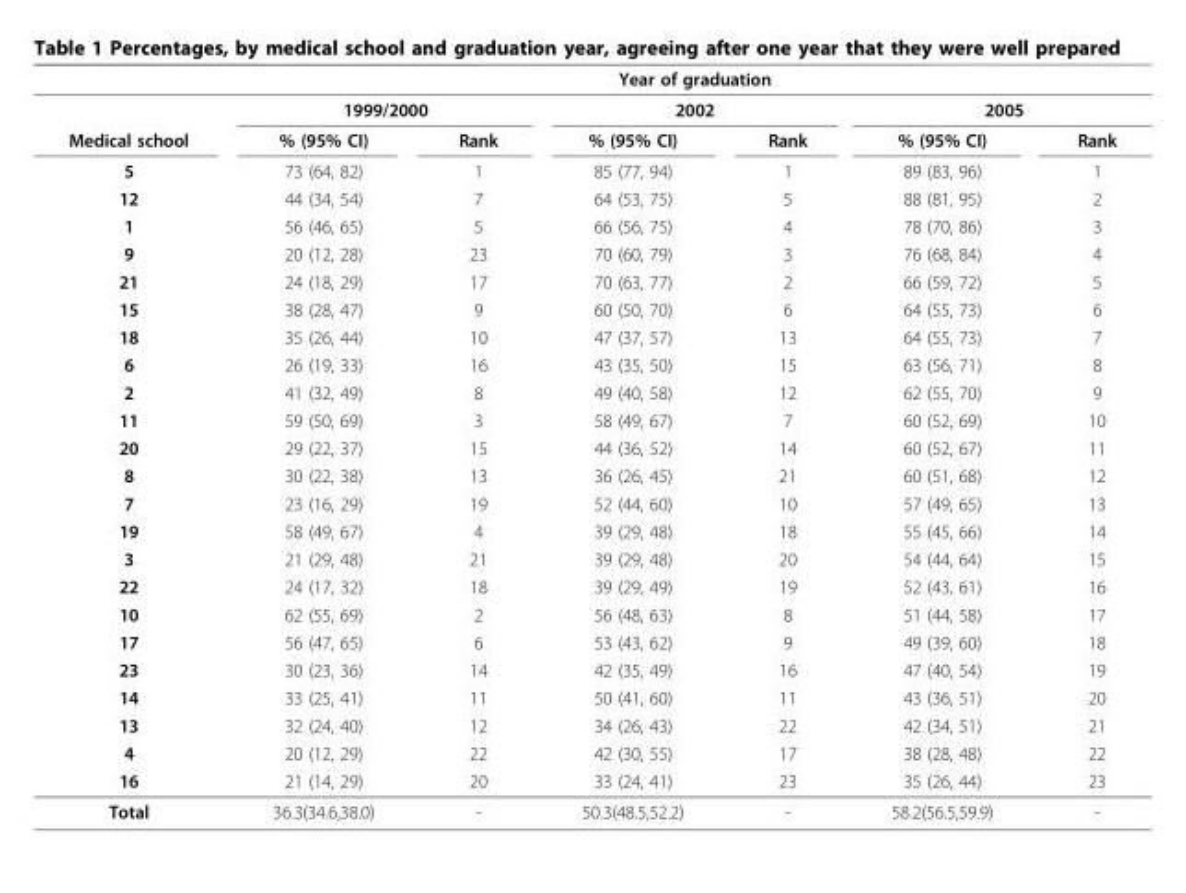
<table><thead><tr><td rowspan="3">Medical school</td><td colspan="6">Year of graduation</td></tr><tr><td colspan="2">1999/2000</td><td colspan="2">2002</td><td colspan="2">2005</td></tr><tr><td>% (95% CI)</td><td>Rank</td><td>% (95% CI)</td><td>Rank</td><td>% (95% CI)</td><td>Rank</td></tr></thead><tbody><tr><td>5</td><td>73 (64, 82)</td><td>1</td><td>85 (77, 94)</td><td>1</td><td>89 (83, 96)</td><td>1</td></tr><tr><td>12</td><td>44 (34, 54)</td><td>7</td><td>64 (53, 75)</td><td>5</td><td>88 (81, 95)</td><td>2</td></tr><tr><td>1</td><td>56 (46, 65)</td><td>5</td><td>66 (56, 75)</td><td>4</td><td>78 (70, 86)</td><td>3</td></tr><tr><td>9</td><td>20 (12, 28)</td><td>23</td><td>70 (60, 79)</td><td>3</td><td>76 (68, 84)</td><td>4</td></tr><tr><td>21</td><td>24 (18, 29)</td><td>17</td><td>70 (63, 77)</td><td>2</td><td>66 (59, 72)</td><td>5</td></tr><tr><td>15</td><td>38 (28, 47)</td><td>9</td><td>60 (50, 70)</td><td>6</td><td>64 (55, 73)</td><td>6</td></tr><tr><td>18</td><td>35 (26, 44)</td><td>10</td><td>47 (37, 57)</td><td>13</td><td>64 (55, 73)</td><td>7</td></tr><tr><td>6</td><td>26 (19, 33)</td><td>16</td><td>43 (35, 50)</td><td>15</td><td>63 (56, 71)</td><td>8</td></tr><tr><td>2</td><td>41 (32, 49)</td><td>8</td><td>49 (40, 58)</td><td>12</td><td>62 (55, 70)</td><td>9</td></tr><tr><td>11</td><td>59 (50, 69)</td><td>3</td><td>58 (49, 67)</td><td>7</td><td>60 (52, 69)</td><td>10</td></tr><tr><td>20</td><td>29 (22, 37)</td><td>15</td><td>44 (36, 52)</td><td>14</td><td>60 (52, 67)</td><td>11</td></tr><tr><td>8</td><td>30 (22, 38)</td><td>13</td><td>36 (26, 45)</td><td>21</td><td>60 (51, 68)</td><td>12</td></tr><tr><td>7</td><td>23 (16, 29)</td><td>19</td><td>52 (44, 60)</td><td>10</td><td>57 (49, 65)</td><td>13</td></tr><tr><td>19</td><td>58 (49, 67)</td><td>4</td><td>39 (29, 48)</td><td>18</td><td>55 (45, 66)</td><td>14</td></tr><tr><td>3</td><td>21 (29, 48)</td><td>21</td><td>39 (29, 48)</td><td>20</td><td>54 (44, 64)</td><td>15</td></tr><tr><td>22</td><td>24 (17, 32)</td><td>18</td><td>39 (29, 49)</td><td>19</td><td>52 (43, 61)</td><td>16</td></tr><tr><td>10</td><td>62 (55, 69)</td><td>2</td><td>56 (48, 63)</td><td>8</td><td>51 (44, 58)</td><td>17</td></tr><tr><td>17</td><td>56 (47, 65)</td><td>6</td><td>53 (43, 62)</td><td>9</td><td>49 (39, 60)</td><td>18</td></tr><tr><td>23</td><td>30 (23, 36)</td><td>14</td><td>42 (35, 49)</td><td>16</td><td>47 (40, 54)</td><td>19</td></tr><tr><td>14</td><td>33 (25, 41)</td><td>11</td><td>50 (41, 60)</td><td>11</td><td>43 (36, 51)</td><td>20</td></tr><tr><td>13</td><td>32 (24, 40)</td><td>12</td><td>34 (26, 43)</td><td>22</td><td>42 (34, 51)</td><td>21</td></tr><tr><td>4</td><td>20 (12, 29)</td><td>22</td><td>42 (30, 55)</td><td>17</td><td>38 (28, 48)</td><td>22</td></tr><tr><td>16</td><td>21 (14, 29)</td><td>20</td><td>33 (24, 41)</td><td>23</td><td>35 (26, 44)</td><td>23</td></tr><tr><td>Total</td><td>36.3(34.6,38.0)</td><td>-</td><td>50.3(48.5,52.2)</td><td>-</td><td>58.2(56.5,59.9)</td><td>-</td></tr></tbody></table>